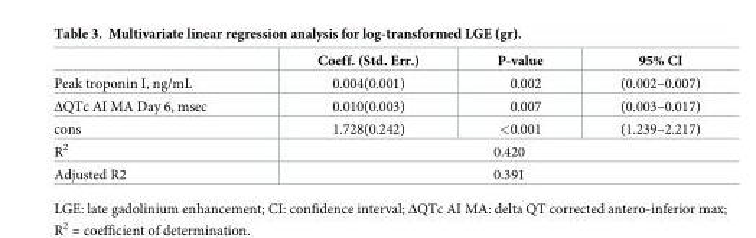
<table><thead><tr><td></td><td>Coeff. (Std. Err.)</td><td>P-value</td><td>95% CI</td></tr></thead><tbody><tr><td>Peak troponin I, ng/mL</td><td>0.004(0.001)</td><td>0.002</td><td>(0.002–0.007)</td></tr><tr><td>ΔQTc AI MA Day 6, msec</td><td>0.010(0.003)</td><td>0.007</td><td>(0.003–0.017)</td></tr><tr><td>cons</td><td>1.728(0.242)</td><td>&lt;0.001</td><td>(1.239–2.217)</td></tr><tr><td>R<sup>2</sup></td><td colspan="3">0.420</td></tr><tr><td>Adjusted R2</td><td colspan="3">0.391</td></tr></tbody></table>